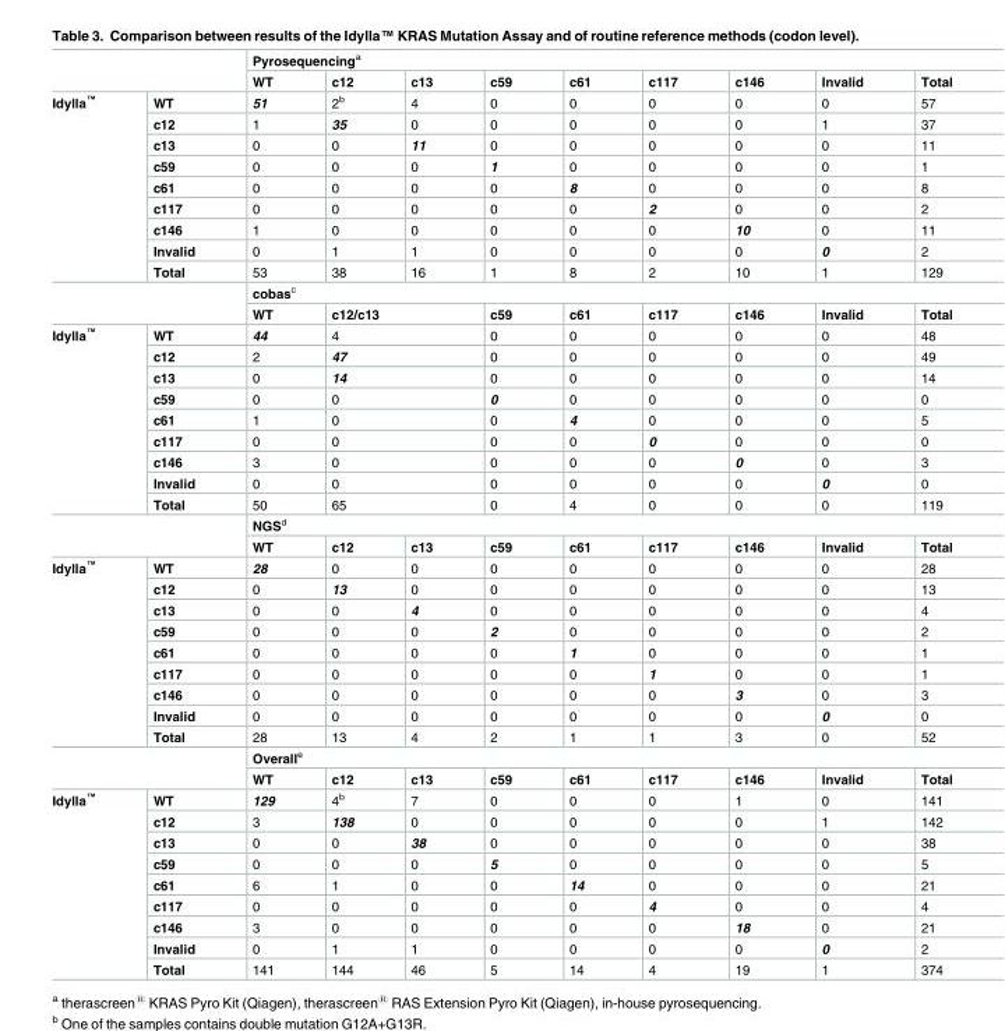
<table><thead><tr><td rowspan="2"></td><td rowspan="2"></td><td colspan="9">Pyrosequencing<sup>a</sup></td></tr><tr><td>WT</td><td>c12</td><td>c13</td><td>c59</td><td>c61</td><td>c117</td><td>c146</td><td>Invalid</td><td>Total</td></tr></thead><tbody><tr><td rowspan="9">Idylla<sup>™</sup></td><td>WT</td><td>51</td><td>2<sup>b</sup></td><td>4</td><td>0</td><td>0</td><td>0</td><td>0</td><td>0</td><td>57</td></tr><tr><td>c12</td><td>1</td><td>35</td><td>0</td><td>0</td><td>0</td><td>0</td><td>0</td><td>1</td><td>37</td></tr><tr><td>c13</td><td>0</td><td>0</td><td>11</td><td>0</td><td>0</td><td>0</td><td>0</td><td>0</td><td>11</td></tr><tr><td>c59</td><td>0</td><td>0</td><td>0</td><td>1</td><td>0</td><td>0</td><td>0</td><td>0</td><td>1</td></tr><tr><td>c61</td><td>0</td><td>0</td><td>0</td><td>0</td><td>8</td><td>0</td><td>0</td><td>0</td><td>8</td></tr><tr><td>c117</td><td>0</td><td>0</td><td>0</td><td>0</td><td>0</td><td>2</td><td>0</td><td>0</td><td>2</td></tr><tr><td>c146</td><td>1</td><td>0</td><td>0</td><td>0</td><td>0</td><td>0</td><td>10</td><td>0</td><td>11</td></tr><tr><td>Invalid</td><td>0</td><td>1</td><td>1</td><td>0</td><td>0</td><td>0</td><td>0</td><td>0</td><td>2</td></tr><tr><td>Total</td><td>53</td><td>38</td><td>16</td><td>1</td><td>8</td><td>2</td><td>10</td><td>1</td><td>129</td></tr><tr><td rowspan="2" colspan="2"></td><td colspan="9">cobas<sup>c</sup></td></tr><tr><td>WT</td><td colspan="2">c12/c13</td><td>c59</td><td>c61</td><td>c117</td><td>c146</td><td>Invalid</td><td>Total</td></tr><tr><td rowspan="9">Idylla<sup>™</sup></td><td>WT</td><td>44</td><td colspan="2">4</td><td>0</td><td>0</td><td>0</td><td>0</td><td>0</td><td>48</td></tr><tr><td>c12</td><td>2</td><td colspan="2">47</td><td>0</td><td>0</td><td>0</td><td>0</td><td>0</td><td>49</td></tr><tr><td>c13</td><td>0</td><td colspan="2">14</td><td>0</td><td>0</td><td>0</td><td>0</td><td>0</td><td>14</td></tr><tr><td>c59</td><td>0</td><td colspan="2">0</td><td>0</td><td>0</td><td>0</td><td>0</td><td>0</td><td>0</td></tr><tr><td>c61</td><td>1</td><td colspan="2">0</td><td>0</td><td>4</td><td>0</td><td>0</td><td>0</td><td>5</td></tr><tr><td>c117</td><td>0</td><td colspan="2">0</td><td>0</td><td>0</td><td>0</td><td>0</td><td>0</td><td>0</td></tr><tr><td>c146</td><td>3</td><td colspan="2">0</td><td>0</td><td>0</td><td>0</td><td>0</td><td>0</td><td>3</td></tr><tr><td>Invalid</td><td>0</td><td colspan="2">0</td><td>0</td><td>0</td><td>0</td><td>0</td><td>0</td><td>0</td></tr><tr><td>Total</td><td>50</td><td colspan="2">65</td><td>0</td><td>4</td><td>0</td><td>0</td><td>0</td><td>119</td></tr><tr><td rowspan="2" colspan="2"></td><td colspan="9">NGS<sup>d</sup></td></tr><tr><td>WT</td><td>c12</td><td>c13</td><td>c59</td><td>c61</td><td>c117</td><td>c146</td><td>Invalid</td><td>Total</td></tr><tr><td rowspan="9">Idylla<sup>™</sup></td><td>WT</td><td>28</td><td>0</td><td>0</td><td>0</td><td>0</td><td>0</td><td>0</td><td>0</td><td>28</td></tr><tr><td>c12</td><td>0</td><td>13</td><td>0</td><td>0</td><td>0</td><td>0</td><td>0</td><td>0</td><td>13</td></tr><tr><td>c13</td><td>0</td><td>0</td><td>4</td><td>0</td><td>0</td><td>0</td><td>0</td><td>0</td><td>4</td></tr><tr><td>c59</td><td>0</td><td>0</td><td>0</td><td>2</td><td>0</td><td>0</td><td>0</td><td>0</td><td>2</td></tr><tr><td>c61</td><td>0</td><td>0</td><td>0</td><td>0</td><td>1</td><td>0</td><td>0</td><td>0</td><td>1</td></tr><tr><td>c117</td><td>0</td><td>0</td><td>0</td><td>0</td><td>0</td><td>1</td><td>0</td><td>0</td><td>1</td></tr><tr><td>c146</td><td>0</td><td>0</td><td>0</td><td>0</td><td>0</td><td>0</td><td>3</td><td>0</td><td>3</td></tr><tr><td>Invalid</td><td>0</td><td>0</td><td>0</td><td>0</td><td>0</td><td>0</td><td>0</td><td>0</td><td>0</td></tr><tr><td>Total</td><td>28</td><td>13</td><td>4</td><td>2</td><td>1</td><td>1</td><td>3</td><td>0</td><td>52</td></tr><tr><td rowspan="2" colspan="2"></td><td colspan="9">Overall<sup>e</sup></td></tr><tr><td>WT</td><td>c12</td><td>c13</td><td>c59</td><td>c61</td><td>c117</td><td>c146</td><td>Invalid</td><td>Total</td></tr><tr><td rowspan="9">Idylla<sup>™</sup></td><td>WT</td><td>129</td><td>4<sup>b</sup></td><td>7</td><td>0</td><td>0</td><td>0</td><td>1</td><td>0</td><td>141</td></tr><tr><td>c12</td><td>3</td><td>138</td><td>0</td><td>0</td><td>0</td><td>0</td><td>0</td><td>1</td><td>142</td></tr><tr><td>c13</td><td>0</td><td>0</td><td>38</td><td>0</td><td>0</td><td>0</td><td>0</td><td>0</td><td>38</td></tr><tr><td>c59</td><td>0</td><td>0</td><td>0</td><td>5</td><td>0</td><td>0</td><td>0</td><td>0</td><td>5</td></tr><tr><td>c61</td><td>6</td><td>1</td><td>0</td><td>0</td><td>14</td><td>0</td><td>0</td><td>0</td><td>21</td></tr><tr><td>c117</td><td>0</td><td>0</td><td>0</td><td>0</td><td>0</td><td>4</td><td>0</td><td>0</td><td>4</td></tr><tr><td>c146</td><td>3</td><td>0</td><td>0</td><td>0</td><td>0</td><td>0</td><td>18</td><td>0</td><td>21</td></tr><tr><td>Invalid</td><td>0</td><td>1</td><td>1</td><td>0</td><td>0</td><td>0</td><td>0</td><td>0</td><td>2</td></tr><tr><td>Total</td><td>141</td><td>144</td><td>46</td><td>5</td><td>14</td><td>4</td><td>19</td><td>1</td><td>374</td></tr></tbody></table>